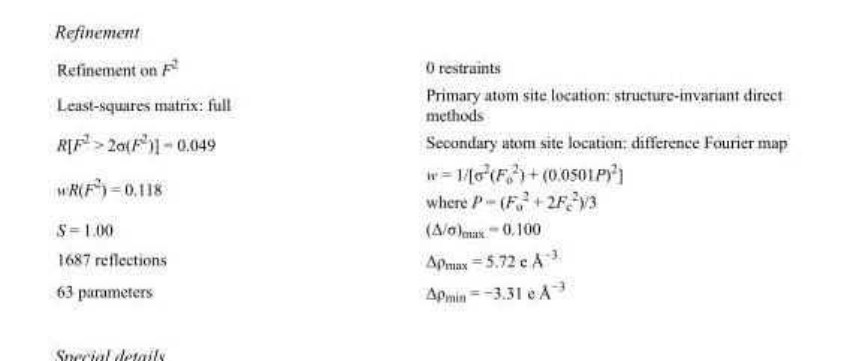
<table><tbody><tr><td>Refinement on F<sup>2</sup></td><td>0 restraints</td></tr><tr><td>Least-squares matrix: full</td><td>Primary atom site location: structure-invariant direct methods</td></tr><tr><td>R[F<sup>2</sup> &gt; 2σ(F<sup>2</sup>)] = 0.049</td><td>Secondary atom site location: difference Fourier map</td></tr><tr><td>wR(F<sup>2</sup>) = 0.118</td><td>w = 1/[σ<sup>2</sup>(F<sub>o</sub> <sup>2</sup>) + (0.0501P)<sup>2</sup>] where P = (F<sub>o</sub> <sup>2</sup> + 2F<sub>c</sub> <sup>2</sup>)/3</td></tr><tr><td>S = 1.00</td><td>(Δ/σ)<sub>max</sub> = 0.100</td></tr><tr><td>1687 reflections</td><td>Δρ<sub>max</sub> = 5.72 e Å<sup>−3</sup></td></tr><tr><td>63 parameters</td><td>Δρ<sub>min</sub> = −3.31 e Å<sup>−3</sup></td></tr></tbody></table>